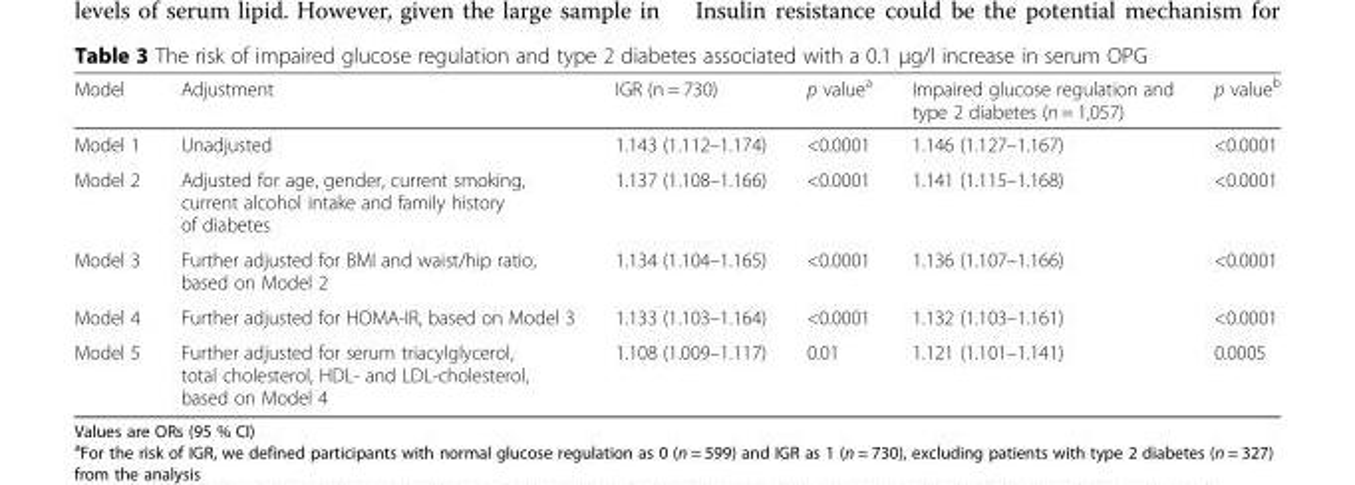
<table><thead><tr><td>Model</td><td>Adjustment</td><td>IGR (n = 730)</td><td>p value<sup>a</sup></td><td>Impaired glucose regulation and type 2 diabetes (n = 1,057)</td><td>p value<sup>b</sup></td></tr></thead><tbody><tr><td>Model 1</td><td>Unadjusted</td><td>1.143 (1.112–1.174)</td><td>&lt;0.0001</td><td>1.146 (1.127–1.167)</td><td>&lt;0.0001</td></tr><tr><td>Model 2</td><td>Adjusted for age, gender, current smoking, current alcohol intake and family history of diabetes</td><td>1.137 (1.108–1.166)</td><td>&lt;0.0001</td><td>1.141 (1.115–1.168)</td><td>&lt;0.0001</td></tr><tr><td>Model 3</td><td>Further adjusted for BMI and waist/hip ratio, based on Model 2</td><td>1.134 (1.104–1.165)</td><td>&lt;0.0001</td><td>1.136 (1.107–1.166)</td><td>&lt;0.0001</td></tr><tr><td>Model 4</td><td>Further adjusted for HOMA-IR, based on Model 3</td><td>1.133 (1.103–1.164)</td><td>&lt;0.0001</td><td>1.132 (1.103–1.161)</td><td>&lt;0.0001</td></tr><tr><td>Model 5</td><td>Further adjusted for serum triacylglycerol, total cholesterol, HDL- and LDL-cholesterol, based on Model 4</td><td>1.108 (1.009–1.117)</td><td>0.01</td><td>1.121 (1.101–1.141)</td><td>0.0005</td></tr></tbody></table>